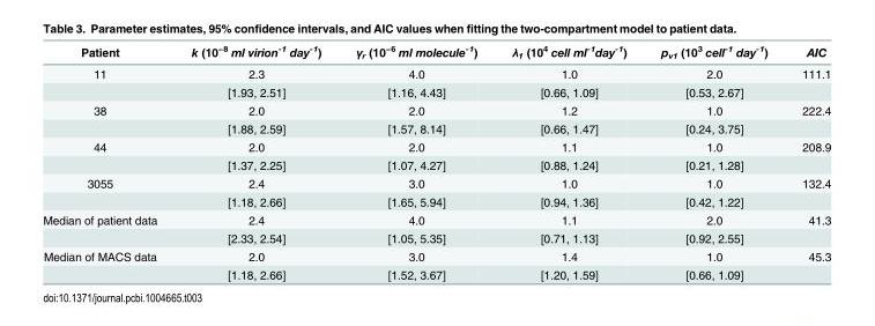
<table><thead><tr><td>Patient</td><td>k (10<sup>−8</sup> ml virion<sup>-1</sup> day<sup>-1</sup>)</td><td>γ<sub>r</sub> (10<sup>−6</sup> ml molecule<sup>-1</sup>)</td><td>λ<sub>1</sub> (10<sup>4</sup> cell ml<sup>-1</sup>day<sup>-1</sup>)</td><td>p<sub>v1</sub> (10<sup>3</sup> cell<sup>-1</sup> day<sup>-1</sup>)</td><td>AIC</td></tr></thead><tbody><tr><td rowspan="2">11</td><td>2.3</td><td>4.0</td><td>1.0</td><td>2.0</td><td>111.1</td></tr><tr><td>[1.93, 2.51]</td><td>[1.16, 4.43]</td><td>[0.66, 1.09]</td><td>[0.53, 2.67]</td><td></td></tr><tr><td rowspan="2">38</td><td>2.0</td><td>2.0</td><td>1.2</td><td>1.0</td><td>222.4</td></tr><tr><td>[1.88, 2.59]</td><td>[1.57, 8.14]</td><td>[0.66, 1.47]</td><td>[0.24, 3.75]</td><td></td></tr><tr><td rowspan="2">44</td><td>2.0</td><td>2.0</td><td>1.1</td><td>1.0</td><td>208.9</td></tr><tr><td>[1.37, 2.25]</td><td>[1.07, 4.27]</td><td>[0.88, 1.24]</td><td>[0.21, 1.28]</td><td></td></tr><tr><td rowspan="2">3055</td><td>2.4</td><td>3.0</td><td>1.0</td><td>1.0</td><td>132.4</td></tr><tr><td>[1.18, 2.66]</td><td>[1.65, 5.94]</td><td>[0.94, 1.36]</td><td>[0.42, 1.22]</td><td></td></tr><tr><td rowspan="2">Median of patient data</td><td>2.4</td><td>4.0</td><td>1.1</td><td>2.0</td><td>41.3</td></tr><tr><td>[2.33, 2.54]</td><td>[1.05, 5.35]</td><td>[0.71, 1.13]</td><td>[0.92, 2.55]</td><td></td></tr><tr><td rowspan="2">Median of MACS data</td><td>2.0</td><td>3.0</td><td>1.4</td><td>1.0</td><td>45.3</td></tr><tr><td>[1.18, 2.66]</td><td>[1.52, 3.67]</td><td>[1.20, 1.59]</td><td>[0.66, 1.09]</td><td></td></tr></tbody></table>